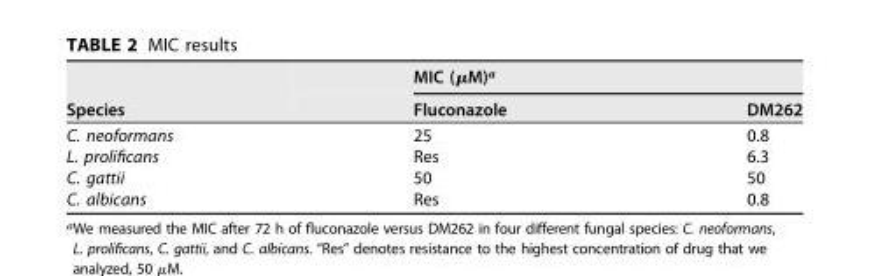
<table><thead><tr><td rowspan="2">Species</td><td colspan="2">MIC (μM)<sup>a</sup></td></tr><tr><td>Fluconazole</td><td>DM262</td></tr></thead><tbody><tr><td>C. neoformans</td><td>25</td><td>0.8</td></tr><tr><td>L. prolificans</td><td>Res</td><td>6.3</td></tr><tr><td>C. gattii</td><td>50</td><td>50</td></tr><tr><td>C. albicans</td><td>Res</td><td>0.8</td></tr></tbody></table>